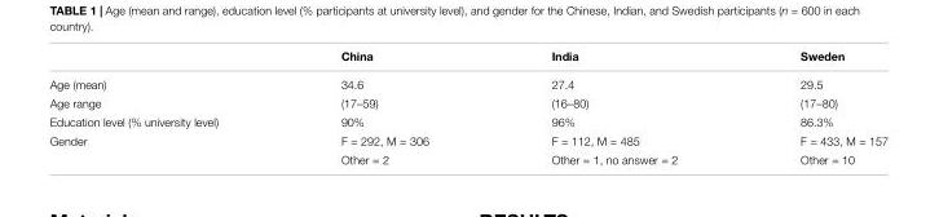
<table><thead><tr><td></td><td>China</td><td>India</td><td>Sweden</td></tr></thead><tbody><tr><td>Age (mean)</td><td>34.6</td><td>27.4</td><td>29.5</td></tr><tr><td>Age range</td><td>(17–59)</td><td>(16–80)</td><td>(17–80)</td></tr><tr><td>Education level (% university level)</td><td>90%</td><td>96%</td><td>86.3%</td></tr><tr><td rowspan="2">Gender</td><td>F = 292, M = 306</td><td>F = 112, M = 485</td><td>F = 433, M = 157</td></tr><tr><td>Other = 2</td><td>Other = 1, no answer = 2</td><td>Other = 10</td></tr></tbody></table>